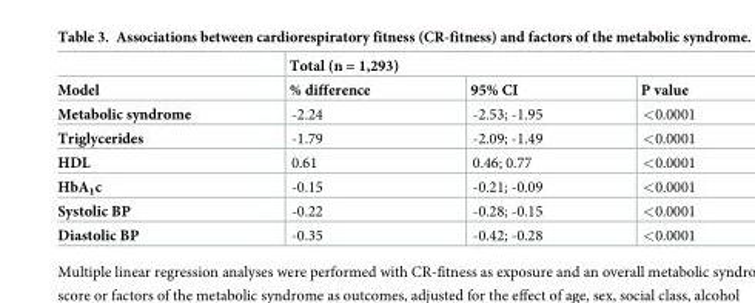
<table><thead><tr><td rowspan="2">Model</td><td colspan="3">Total (n = 1,293)</td></tr><tr><td>% difference</td><td>95% CI</td><td>P value</td></tr></thead><tbody><tr><td>Metabolic syndrome</td><td>-2.24</td><td>-2.53; -1.95</td><td>&lt;0.0001</td></tr><tr><td>Triglycerides</td><td>-1.79</td><td>-2.09; -1.49</td><td>&lt;0.0001</td></tr><tr><td>HDL</td><td>0.61</td><td>0.46; 0.77</td><td>&lt;0.0001</td></tr><tr><td>HbA<sub>1</sub>c</td><td>-0.15</td><td>-0.21; -0.09</td><td>&lt;0.0001</td></tr><tr><td>Systolic BP</td><td>-0.22</td><td>-0.28; -0.15</td><td>&lt;0.0001</td></tr><tr><td>Diastolic BP</td><td>-0.35</td><td>-0.42; -0.28</td><td>&lt;0.0001</td></tr></tbody></table>